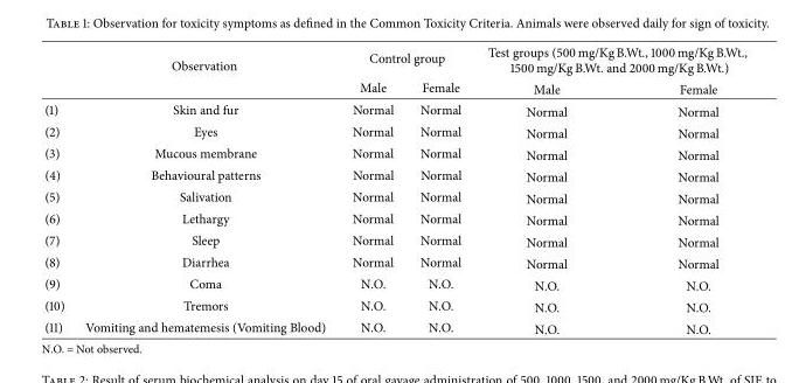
<table><thead><tr><td rowspan="2"></td><td rowspan="2">Observation</td><td colspan="2">Control group</td><td colspan="2">Test groups (500 mg/Kg B.Wt., 1000 mg/Kg B.Wt., 1500 mg/Kg B.Wt. and 2000 mg/Kg B.Wt.)</td></tr><tr><td>Male</td><td>Female</td><td>Male</td><td>Female</td></tr></thead><tbody><tr><td>(1)</td><td>Skin and fur</td><td>Normal</td><td>Normal</td><td>Normal</td><td>Normal</td></tr><tr><td>(2)</td><td>Eyes</td><td>Normal</td><td>Normal</td><td>Normal</td><td>Normal</td></tr><tr><td>(3)</td><td>Mucous membrane</td><td>Normal</td><td>Normal</td><td>Normal</td><td>Normal</td></tr><tr><td>(4)</td><td>Behavioural patterns</td><td>Normal</td><td>Normal</td><td>Normal</td><td>Normal</td></tr><tr><td>(5)</td><td>Salivation</td><td>Normal</td><td>Normal</td><td>Normal</td><td>Normal</td></tr><tr><td>(6)</td><td>Lethargy</td><td>Normal</td><td>Normal</td><td>Normal</td><td>Normal</td></tr><tr><td>(7)</td><td>Sleep</td><td>Normal</td><td>Normal</td><td>Normal</td><td>Normal</td></tr><tr><td>(8)</td><td>Diarrhea</td><td>Normal</td><td>Normal</td><td>Normal</td><td>Normal</td></tr><tr><td>(9)</td><td>Coma</td><td>N.O.</td><td>N.O.</td><td>N.O.</td><td>N.O.</td></tr><tr><td>(10)</td><td>Tremors</td><td>N.O.</td><td>N.O.</td><td>N.O.</td><td>N.O.</td></tr><tr><td>(11)</td><td>Vomiting and hematemesis (Vomiting Blood)</td><td>N.O.</td><td>N.O.</td><td>N.O.</td><td>N.O.</td></tr></tbody></table>